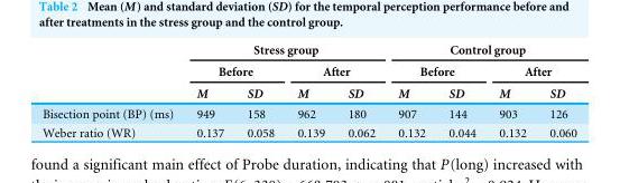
<table><thead><tr><td rowspan="3"></td><td colspan="4">Stress group</td><td colspan="4">Control group</td></tr><tr><td colspan="2">Before</td><td colspan="2">After</td><td colspan="2">Before</td><td colspan="2">After</td></tr><tr><td>M</td><td>SD</td><td>M</td><td>SD</td><td>M</td><td>SD</td><td>M</td><td>SD</td></tr></thead><tbody><tr><td>Bisection point (BP) (ms)</td><td>949</td><td>158</td><td>962</td><td>180</td><td>907</td><td>144</td><td>903</td><td>126</td></tr><tr><td>Weber ratio (WR)</td><td>0.137</td><td>0.058</td><td>0.139</td><td>0.062</td><td>0.132</td><td>0.044</td><td>0.132</td><td>0.060</td></tr></tbody></table>